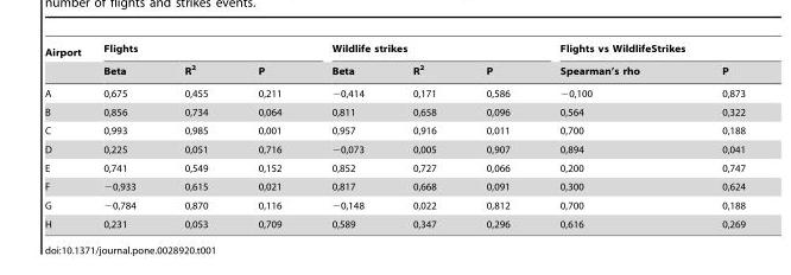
<table><thead><tr><td rowspan="2">Airport</td><td colspan="3">Flights</td><td colspan="3">Wildlife strikes</td><td colspan="2">Flights vs WildlifeStrikes</td></tr><tr><td>Beta</td><td>R<sup>2</sup></td><td>P</td><td>Beta</td><td>R<sup>2</sup></td><td>P</td><td>Spearman’s rho</td><td>P</td></tr></thead><tbody><tr><td>A</td><td>0,675</td><td>0,455</td><td>0,211</td><td>−0,414</td><td>0,171</td><td>0,586</td><td>−0,100</td><td>0,873</td></tr><tr><td>B</td><td>0,856</td><td>0,734</td><td>0,064</td><td>0,811</td><td>0,658</td><td>0,096</td><td>0,564</td><td>0,322</td></tr><tr><td>C</td><td>0,993</td><td>0,985</td><td>0,001</td><td>0,957</td><td>0,916</td><td>0,011</td><td>0,700</td><td>0,188</td></tr><tr><td>D</td><td>0,225</td><td>0,051</td><td>0,716</td><td>−0,073</td><td>0,005</td><td>0,907</td><td>0,894</td><td>0,041</td></tr><tr><td>E</td><td>0,741</td><td>0,549</td><td>0,152</td><td>0,852</td><td>0,727</td><td>0,066</td><td>0,200</td><td>0,747</td></tr><tr><td>F</td><td>−0,933</td><td>0,615</td><td>0,021</td><td>0,817</td><td>0,668</td><td>0,091</td><td>0,300</td><td>0,624</td></tr><tr><td>G</td><td>−0,784</td><td>0,870</td><td>0,116</td><td>−0,148</td><td>0,022</td><td>0,812</td><td>0,700</td><td>0,188</td></tr><tr><td>H</td><td>0,231</td><td>0,053</td><td>0,709</td><td>0,589</td><td>0,347</td><td>0,296</td><td>0,616</td><td>0,269</td></tr></tbody></table>